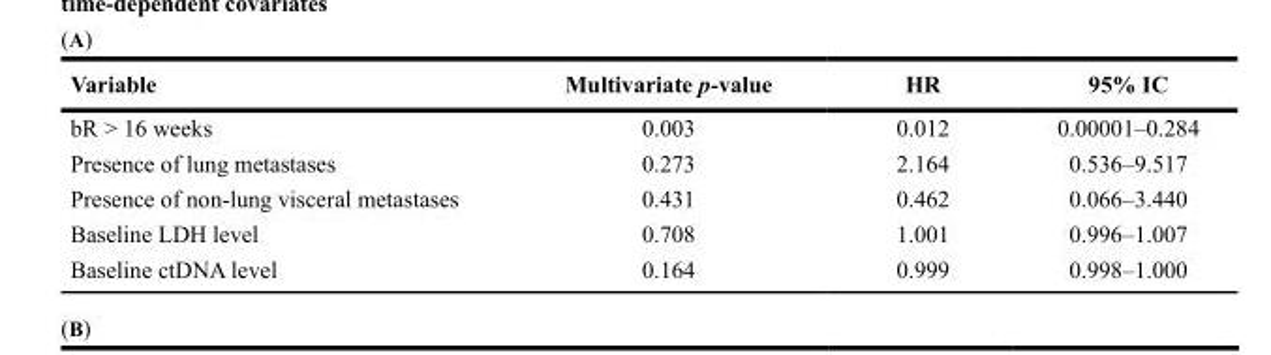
<table><thead><tr><td>Variable</td><td>Multivariate p-value</td><td>HR</td><td>95% IC</td></tr></thead><tbody><tr><td>bR &gt; 16 weeks</td><td>0.003</td><td>0.012</td><td>0.00001–0.284</td></tr><tr><td>Presence of lung metastases</td><td>0.273</td><td>2.164</td><td>0.536–9.517</td></tr><tr><td>Presence of non-lung visceral metastases</td><td>0.431</td><td>0.462</td><td>0.066–3.440</td></tr><tr><td>Baseline LDH level</td><td>0.708</td><td>1.001</td><td>0.996–1.007</td></tr><tr><td>Baseline ctDNA level</td><td>0.164</td><td>0.999</td><td>0.998–1.000</td></tr></tbody></table>